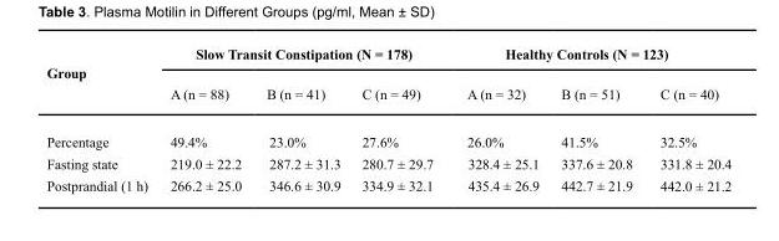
<table><thead><tr><td rowspan="2">Group</td><td colspan="3">Slow Transit Constipation (N = 178)</td><td colspan="3">Healthy Controls (N = 123)</td></tr><tr><td>A (n = 88)</td><td>B (n = 41)</td><td>C (n = 49)</td><td>A (n = 32)</td><td>B (n = 51)</td><td>C (n = 40)</td></tr></thead><tbody><tr><td>Percentage</td><td>49.4%</td><td>23.0%</td><td>27.6%</td><td>26.0%</td><td>41.5%</td><td>32.5%</td></tr><tr><td>Fasting state</td><td>219.0 ± 22.2</td><td>287.2 ± 31.3</td><td>280.7 ± 29.7</td><td>328.4 ± 25.1</td><td>337.6 ± 20.8</td><td>331.8 ± 20.4</td></tr><tr><td>Postprandial (1 h)</td><td>266.2 ± 25.0</td><td>346.6 ± 30.9</td><td>334.9 ± 32.1</td><td>435.4 ± 26.9</td><td>442.7 ± 21.9</td><td>442.0 ± 21.2</td></tr></tbody></table>